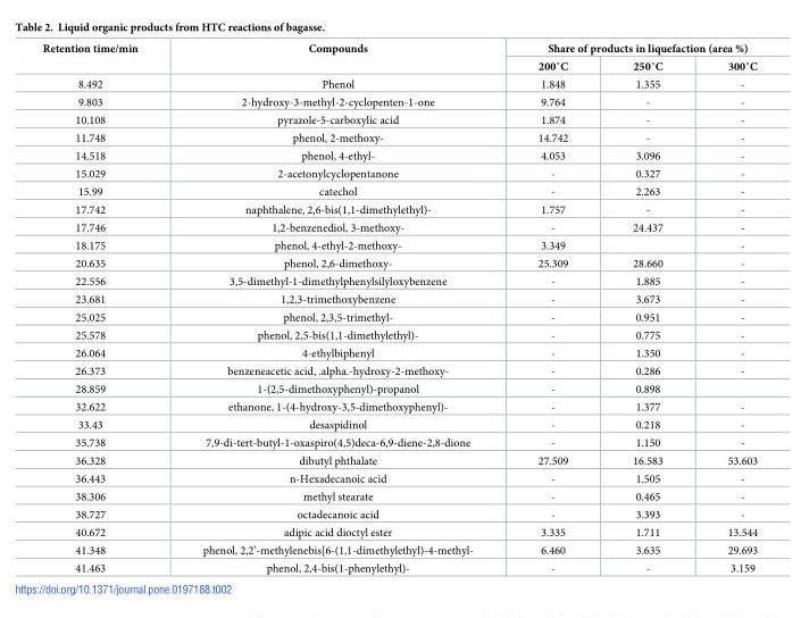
<table><thead><tr><td rowspan="2">Retention time/min</td><td rowspan="2">Compounds</td><td colspan="3">Share of products in liquefaction (area %)</td></tr><tr><td>200˚C</td><td>250˚C</td><td>300˚C</td></tr></thead><tbody><tr><td>8.492</td><td>Phenol</td><td>1.848</td><td>1.355</td><td>-</td></tr><tr><td>9.803</td><td>2-hydroxy-3-methyl-2-cyclopenten-1-one</td><td>9.764</td><td>-</td><td>-</td></tr><tr><td>10.108</td><td>pyrazole-5-carboxylic acid</td><td>1.874</td><td>-</td><td>-</td></tr><tr><td>11.748</td><td>phenol, 2-methoxy-</td><td>14.742</td><td>-</td><td>-</td></tr><tr><td>14.518</td><td>phenol, 4-ethyl-</td><td>4.053</td><td>3.096</td><td>-</td></tr><tr><td>15.029</td><td>2-acetonylcyclopentanone</td><td>-</td><td>0.327</td><td>-</td></tr><tr><td>15.99</td><td>catechol</td><td>-</td><td>2.263</td><td>-</td></tr><tr><td>17.742</td><td>naphthalene, 2,6-bis(1,1-dimethylethyl)-</td><td>1.757</td><td>-</td><td>-</td></tr><tr><td>17.746</td><td>1,2-benzenediol, 3-methoxy-</td><td>-</td><td>24.437</td><td>-</td></tr><tr><td>18.175</td><td>phenol, 4-ethyl-2-methoxy-</td><td>3.349</td><td></td><td>-</td></tr><tr><td>20.635</td><td>phenol, 2,6-dimethoxy-</td><td>25.309</td><td>28.660</td><td>-</td></tr><tr><td>22.556</td><td>3,5-dimethyl-1-dimethylphenylsilyloxybenzene</td><td>-</td><td>1.885</td><td>-</td></tr><tr><td>23.681</td><td>1,2,3-trimethoxybenzene</td><td>-</td><td>3.673</td><td>-</td></tr><tr><td>25.025</td><td>phenol, 2,3,5-trimethyl-</td><td>-</td><td>0.951</td><td>-</td></tr><tr><td>25.578</td><td>phenol, 2,5-bis(1,1-dimethylethyl)-</td><td>-</td><td>0.775</td><td>-</td></tr><tr><td>26.064</td><td>4-ethylbiphenyl</td><td>-</td><td>1.350</td><td>-</td></tr><tr><td>26.373</td><td>benzeneacetic acid, .alpha.-hydroxy-2-methoxy-</td><td>-</td><td>0.286</td><td>-</td></tr><tr><td>28.859</td><td>1-(2,5-dimethoxyphenyl)-propanol</td><td>-</td><td>0.898</td><td></td></tr><tr><td>32.622</td><td>ethanone, 1-(4-hydroxy-3,5-dimethoxyphenyl)-</td><td>-</td><td>1.377</td><td>-</td></tr><tr><td>33.43</td><td>desaspidinol</td><td>-</td><td>0.218</td><td>-</td></tr><tr><td>35.738</td><td>7,9-di-tert-butyl-1-oxaspiro(4,5)deca-6,9-diene-2,8-dione</td><td>-</td><td>1.150</td><td>-</td></tr><tr><td>36.328</td><td>dibutyl phthalate</td><td>27.509</td><td>16.583</td><td>53.603</td></tr><tr><td>36.443</td><td>n-Hexadecanoic acid</td><td>-</td><td>1.505</td><td>-</td></tr><tr><td>38.306</td><td>methyl stearate</td><td>-</td><td>0.465</td><td>-</td></tr><tr><td>38.727</td><td>octadecanoic acid</td><td>-</td><td>3.393</td><td>-</td></tr><tr><td>40.672</td><td>adipic acid dioctyl ester</td><td>3.335</td><td>1.711</td><td>13.544</td></tr><tr><td>41.348</td><td>phenol, 2,2’-methylenebis[6-(1,1-dimethylethyl)-4-methyl-</td><td>6.460</td><td>3.635</td><td>29.693</td></tr><tr><td>41.463</td><td>phenol, 2,4-bis(1-phenylethyl)-</td><td>-</td><td>-</td><td>3.159</td></tr></tbody></table>